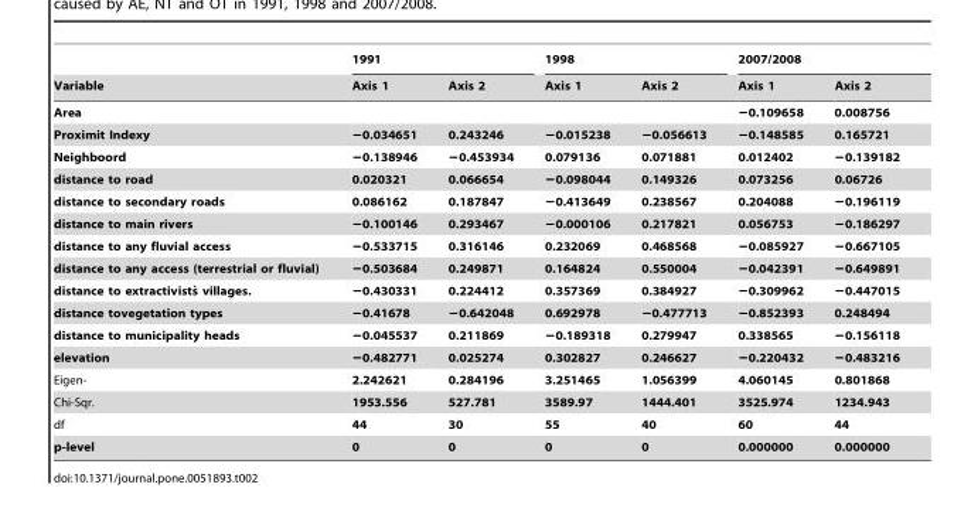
<table><thead><tr><td rowspan="2">Variable</td><td colspan="2">1991</td><td colspan="2">1998</td><td colspan="2">2007/2008</td></tr><tr><td>Axis 1</td><td>Axis 2</td><td>Axis 1</td><td>Axis 2</td><td>Axis 1</td><td>Axis 2</td></tr></thead><tbody><tr><td>Area</td><td></td><td></td><td></td><td></td><td>−0.109658</td><td>0.008756</td></tr><tr><td>Proximit Indexy</td><td>−0.034651</td><td>0.243246</td><td>−0.015238</td><td>−0.056613</td><td>−0.148585</td><td>0.165721</td></tr><tr><td>Neighboord</td><td>−0.138946</td><td>−0.453934</td><td>0.079136</td><td>0.071881</td><td>0.012402</td><td>−0.139182</td></tr><tr><td>distance to road</td><td>0.020321</td><td>0.066654</td><td>−0.098044</td><td>0.149326</td><td>0.073256</td><td>0.06726</td></tr><tr><td>distance to secondary roads</td><td>0.086162</td><td>0.187847</td><td>−0.413649</td><td>0.238567</td><td>0.204088</td><td>−0.196119</td></tr><tr><td>distance to main rivers</td><td>−0.100146</td><td>0.293467</td><td>−0.000106</td><td>0.217821</td><td>0.056753</td><td>−0.186297</td></tr><tr><td>distance to any fluvial access</td><td>−0.533715</td><td>0.316146</td><td>0.232069</td><td>0.468568</td><td>−0.085927</td><td>−0.667105</td></tr><tr><td>distance to any access (terrestrial or fluvial)</td><td>−0.503684</td><td>0.249871</td><td>0.164824</td><td>0.550004</td><td>−0.042391</td><td>−0.649891</td></tr><tr><td>distance to extractivists` villages.</td><td>−0.430331</td><td>0.224412</td><td>0.357369</td><td>0.384927</td><td>−0.309962</td><td>−0.447015</td></tr><tr><td>distance tovegetation types</td><td>−0.41678</td><td>−0.642048</td><td>0.692978</td><td>−0.477713</td><td>−0.852393</td><td>0.248494</td></tr><tr><td>distance to municipality heads</td><td>−0.045537</td><td>0.211869</td><td>−0.189318</td><td>0.279947</td><td>0.338565</td><td>−0.156118</td></tr><tr><td>elevation</td><td>−0.482771</td><td>0.025274</td><td>0.302827</td><td>0.246627</td><td>−0.220432</td><td>−0.483216</td></tr><tr><td>Eigen-</td><td>2.242621</td><td>0.284196</td><td>3.251465</td><td>1.056399</td><td>4.060145</td><td>0.801868</td></tr><tr><td>Chi-Sqr.</td><td>1953.556</td><td>527.781</td><td>3589.97</td><td>1444.401</td><td>3525.974</td><td>1234.943</td></tr><tr><td>df</td><td>44</td><td>30</td><td>55</td><td>40</td><td>60</td><td>44</td></tr><tr><td>p-level</td><td>0</td><td>0</td><td>0</td><td>0</td><td>0.000000</td><td>0.000000</td></tr></tbody></table>